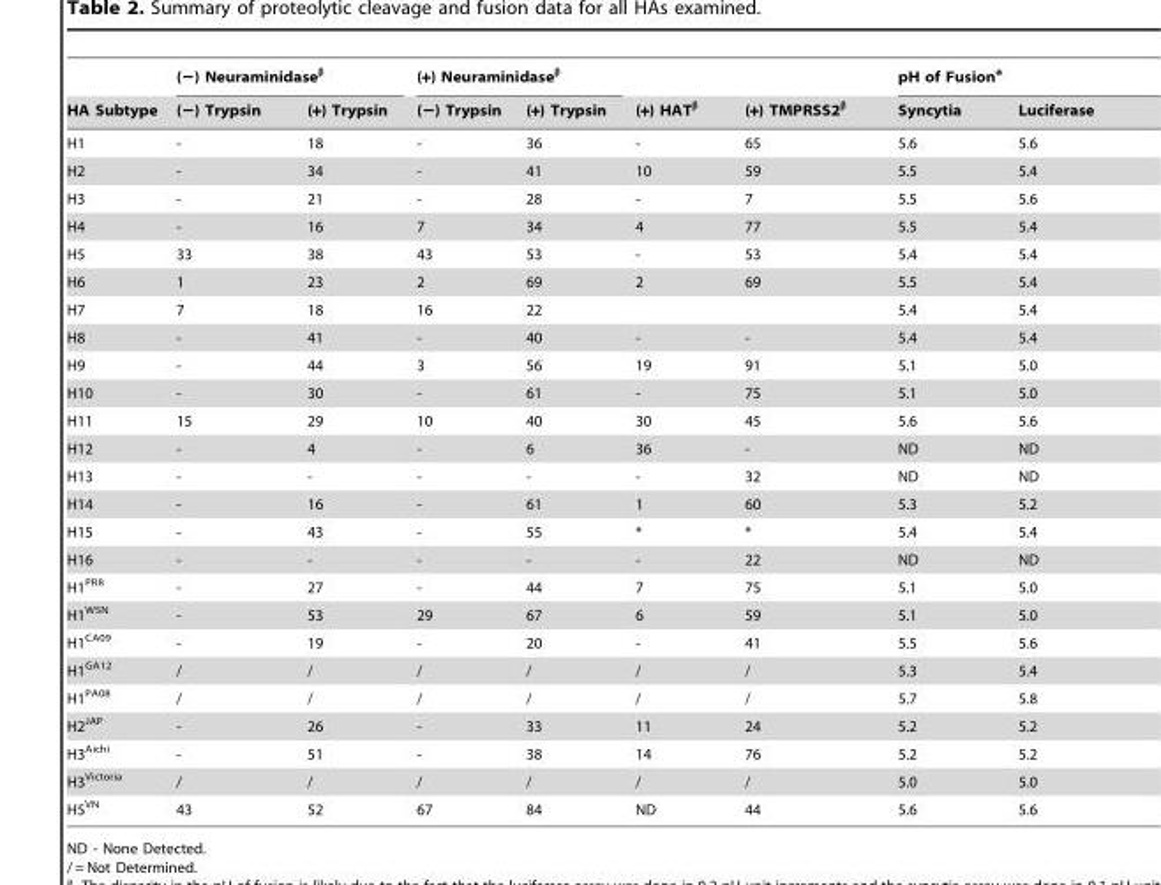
<table><thead><tr><td rowspan="2">HA Subtype</td><td colspan="2">(−) Neuraminidaseβ</td><td colspan="2">(+) Neuraminidaseβ</td><td rowspan="2">(+) HATβ</td><td rowspan="2">(+) TMPRSS2β</td><td colspan="2">pH of Fusion<sup>a</sup></td></tr><tr><td>(−) Trypsin</td><td>(+) Trypsin</td><td>(−) Trypsin</td><td>(+) Trypsin</td><td>Syncytia</td><td>Luciferase</td></tr></thead><tbody><tr><td>H1</td><td>-</td><td>18</td><td>-</td><td>36</td><td>-</td><td>65</td><td>5.6</td><td>5.6</td></tr><tr><td>H2</td><td>-</td><td>34</td><td>-</td><td>41</td><td>10</td><td>59</td><td>5.5</td><td>5.4</td></tr><tr><td>H3</td><td>-</td><td>21</td><td>-</td><td>28</td><td>-</td><td>7</td><td>5.5</td><td>5.6</td></tr><tr><td>H4</td><td>-</td><td>16</td><td>7</td><td>34</td><td>4</td><td>77</td><td>5.5</td><td>5.4</td></tr><tr><td>H5</td><td>33</td><td>38</td><td>43</td><td>53</td><td>-</td><td>53</td><td>5.4</td><td>5.4</td></tr><tr><td>H6</td><td>1</td><td>23</td><td>2</td><td>69</td><td>2</td><td>69</td><td>5.5</td><td>5.4</td></tr><tr><td>H7</td><td>7</td><td>18</td><td>16</td><td>22</td><td></td><td></td><td>5.4</td><td>5.4</td></tr><tr><td>H8</td><td>-</td><td>41</td><td>-</td><td>40</td><td>-</td><td>-</td><td>5.4</td><td>5.4</td></tr><tr><td>H9</td><td>-</td><td>44</td><td>3</td><td>56</td><td>19</td><td>91</td><td>5.1</td><td>5.0</td></tr><tr><td>H10</td><td>-</td><td>30</td><td>-</td><td>61</td><td>-</td><td>75</td><td>5.1</td><td>5.0</td></tr><tr><td>H11</td><td>15</td><td>29</td><td>10</td><td>40</td><td>30</td><td>45</td><td>5.6</td><td>5.6</td></tr><tr><td>H12</td><td>-</td><td>4</td><td>-</td><td>6</td><td>36</td><td>-</td><td>ND</td><td>ND</td></tr><tr><td>H13</td><td>-</td><td>-</td><td>-</td><td>-</td><td>-</td><td>32</td><td>ND</td><td>ND</td></tr><tr><td>H14</td><td>-</td><td>16</td><td>-</td><td>61</td><td>1</td><td>60</td><td>5.3</td><td>5.2</td></tr><tr><td>H15</td><td>-</td><td>43</td><td>-</td><td>55</td><td>*</td><td>*</td><td>5.4</td><td>5.4</td></tr><tr><td>H16</td><td>-</td><td>-</td><td>-</td><td>-</td><td>-</td><td>22</td><td>ND</td><td>ND</td></tr><tr><td>H1<sup>PR8</sup></td><td>-</td><td>27</td><td>-</td><td>44</td><td>7</td><td>75</td><td>5.1</td><td>5.0</td></tr><tr><td>H1<sup>WSN</sup></td><td>-</td><td>53</td><td>29</td><td>67</td><td>6</td><td>59</td><td>5.1</td><td>5.0</td></tr><tr><td>H1<sup>CA09</sup></td><td>-</td><td>19</td><td>-</td><td>20</td><td>-</td><td>41</td><td>5.5</td><td>5.6</td></tr><tr><td>H1<sup>GA12</sup></td><td>/</td><td>/</td><td>/</td><td>/</td><td>/</td><td>/</td><td>5.3</td><td>5.4</td></tr><tr><td>H1<sup>PA08</sup></td><td>/</td><td>/</td><td>/</td><td>/</td><td>/</td><td>/</td><td>5.7</td><td>5.8</td></tr><tr><td>H2<sup>JAP</sup></td><td>-</td><td>26</td><td>-</td><td>33</td><td>11</td><td>24</td><td>5.2</td><td>5.2</td></tr><tr><td>H3<sup>Aichi</sup></td><td>-</td><td>51</td><td>-</td><td>38</td><td>14</td><td>76</td><td>5.2</td><td>5.2</td></tr><tr><td>H3<sup>Victoria</sup></td><td>/</td><td>/</td><td>/</td><td>/</td><td>/</td><td>/</td><td>5.0</td><td>5.0</td></tr><tr><td>H5<sup>VN</sup></td><td>43</td><td>52</td><td>67</td><td>84</td><td>ND</td><td>44</td><td>5.6</td><td>5.6</td></tr></tbody></table>